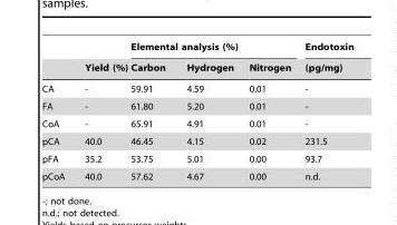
<table><thead><tr><td rowspan="2"></td><td rowspan="2">Yield (%)</td><td colspan="3">Elemental analysis (%)</td><td rowspan="2">Endotoxin (pg/mg)</td></tr><tr><td>Carbon</td><td>Hydrogen</td><td>Nitrogen</td></tr></thead><tbody><tr><td>CA</td><td>-</td><td>59.91</td><td>4.59</td><td>0.01</td><td>-</td></tr><tr><td>FA</td><td>-</td><td>61.80</td><td>5.20</td><td>0.01</td><td>-</td></tr><tr><td>CoA</td><td>-</td><td>65.91</td><td>4.91</td><td>0.01</td><td>-</td></tr><tr><td>pCA</td><td>40.0</td><td>46.45</td><td>4.15</td><td>0.02</td><td>231.5</td></tr><tr><td>pFA</td><td>35.2</td><td>53.75</td><td>5.01</td><td>0.00</td><td>93.7</td></tr><tr><td>pCoA</td><td>40.0</td><td>57.62</td><td>4.67</td><td>0.00</td><td>n.d.</td></tr></tbody></table>